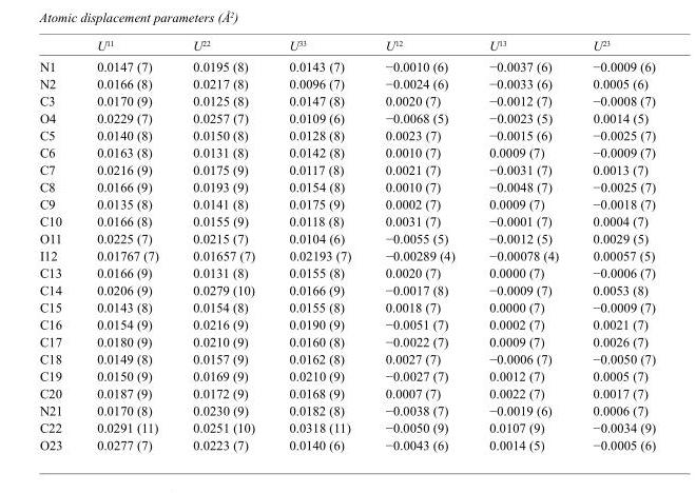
<table><thead><tr><td></td><td>U<sup>11</sup></td><td>U<sup>22</sup></td><td>U<sup>33</sup></td><td>U<sup>12</sup></td><td>U<sup>13</sup></td><td>U<sup>23</sup></td></tr></thead><tbody><tr><td>N1</td><td>0.0147 (7)</td><td>0.0195 (8)</td><td>0.0143 (7)</td><td>−0.0010 (6)</td><td>−0.0037 (6)</td><td>−0.0009 (6)</td></tr><tr><td>N2</td><td>0.0166 (8)</td><td>0.0217 (8)</td><td>0.0096 (7)</td><td>−0.0024 (6)</td><td>−0.0033 (6)</td><td>0.0005 (6)</td></tr><tr><td>C3</td><td>0.0170 (9)</td><td>0.0125 (8)</td><td>0.0147 (8)</td><td>0.0020 (7)</td><td>−0.0012 (7)</td><td>−0.0008 (7)</td></tr><tr><td>O4</td><td>0.0229 (7)</td><td>0.0257 (7)</td><td>0.0109 (6)</td><td>−0.0068 (5)</td><td>−0.0023 (5)</td><td>0.0014 (5)</td></tr><tr><td>C5</td><td>0.0140 (8)</td><td>0.0150 (8)</td><td>0.0128 (8)</td><td>0.0023 (7)</td><td>−0.0015 (6)</td><td>−0.0025 (7)</td></tr><tr><td>C6</td><td>0.0163 (8)</td><td>0.0131 (8)</td><td>0.0142 (8)</td><td>0.0010 (7)</td><td>0.0009 (7)</td><td>−0.0009 (7)</td></tr><tr><td>C7</td><td>0.0216 (9)</td><td>0.0175 (9)</td><td>0.0117 (8)</td><td>0.0021 (7)</td><td>−0.0031 (7)</td><td>0.0013 (7)</td></tr><tr><td>C8</td><td>0.0166 (9)</td><td>0.0193 (9)</td><td>0.0154 (8)</td><td>0.0010 (7)</td><td>−0.0048 (7)</td><td>−0.0025 (7)</td></tr><tr><td>C9</td><td>0.0135 (8)</td><td>0.0141 (8)</td><td>0.0175 (9)</td><td>0.0002 (7)</td><td>0.0009 (7)</td><td>−0.0018 (7)</td></tr><tr><td>C10</td><td>0.0166 (8)</td><td>0.0155 (9)</td><td>0.0118 (8)</td><td>0.0031 (7)</td><td>−0.0001 (7)</td><td>0.0004 (7)</td></tr><tr><td>O11</td><td>0.0225 (7)</td><td>0.0215 (7)</td><td>0.0104 (6)</td><td>−0.0055 (5)</td><td>−0.0012 (5)</td><td>0.0029 (5)</td></tr><tr><td>I12</td><td>0.01767 (7)</td><td>0.01657 (7)</td><td>0.02193 (7)</td><td>−0.00289 (4)</td><td>−0.00078 (4)</td><td>0.00057 (5)</td></tr><tr><td>C13</td><td>0.0166 (9)</td><td>0.0131 (8)</td><td>0.0155 (8)</td><td>0.0020 (7)</td><td>0.0000 (7)</td><td>−0.0006 (7)</td></tr><tr><td>C14</td><td>0.0206 (9)</td><td>0.0279 (10)</td><td>0.0166 (9)</td><td>−0.0017 (8)</td><td>−0.0009 (7)</td><td>0.0053 (8)</td></tr><tr><td>C15</td><td>0.0143 (8)</td><td>0.0154 (8)</td><td>0.0155 (8)</td><td>0.0018 (7)</td><td>0.0000 (7)</td><td>−0.0009 (7)</td></tr><tr><td>C16</td><td>0.0154 (9)</td><td>0.0216 (9)</td><td>0.0190 (9)</td><td>−0.0051 (7)</td><td>0.0002 (7)</td><td>0.0021 (7)</td></tr><tr><td>C17</td><td>0.0180 (9)</td><td>0.0210 (9)</td><td>0.0160 (8)</td><td>−0.0022 (7)</td><td>0.0009 (7)</td><td>0.0026 (7)</td></tr><tr><td>C18</td><td>0.0149 (8)</td><td>0.0157 (9)</td><td>0.0162 (8)</td><td>0.0027 (7)</td><td>−0.0006 (7)</td><td>−0.0050 (7)</td></tr><tr><td>C19</td><td>0.0150 (9)</td><td>0.0169 (9)</td><td>0.0210 (9)</td><td>−0.0027 (7)</td><td>0.0012 (7)</td><td>0.0005 (7)</td></tr><tr><td>C20</td><td>0.0187 (9)</td><td>0.0172 (9)</td><td>0.0168 (9)</td><td>0.0007 (7)</td><td>0.0022 (7)</td><td>0.0017 (7)</td></tr><tr><td>N21</td><td>0.0170 (8)</td><td>0.0230 (9)</td><td>0.0182 (8)</td><td>−0.0038 (7)</td><td>−0.0019 (6)</td><td>0.0006 (7)</td></tr><tr><td>C22</td><td>0.0291 (11)</td><td>0.0251 (10)</td><td>0.0318 (11)</td><td>−0.0050 (9)</td><td>0.0107 (9)</td><td>−0.0034 (9)</td></tr><tr><td>O23</td><td>0.0277 (7)</td><td>0.0223 (7)</td><td>0.0140 (6)</td><td>−0.0043 (6)</td><td>0.0014 (5)</td><td>−0.0005 (6)</td></tr></tbody></table>